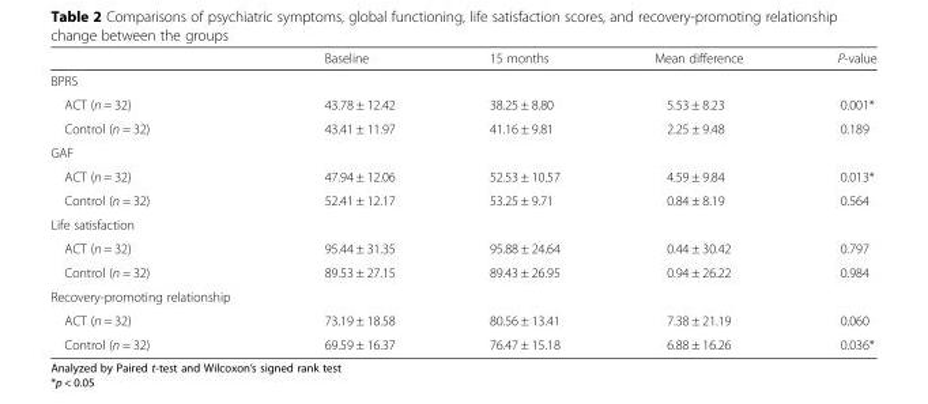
<table><thead><tr><td></td><td>Baseline</td><td>15 months</td><td>Mean difference</td><td>P-value</td></tr></thead><tbody><tr><td colspan="5">BPRS</td></tr><tr><td>ACT (n = 32)</td><td>43.78 ± 12.42</td><td>38.25 ± 8.80</td><td>5.53 ± 8.23</td><td>0.001*</td></tr><tr><td>Control (n = 32)</td><td>43.41 ± 11.97</td><td>41.16 ± 9.81</td><td>2.25 ± 9.48</td><td>0.189</td></tr><tr><td colspan="5">GAF</td></tr><tr><td>ACT (n = 32)</td><td>47.94 ± 12.06</td><td>52.53 ± 10.57</td><td>4.59 ± 9.84</td><td>0.013*</td></tr><tr><td>Control (n = 32)</td><td>52.41 ± 12.17</td><td>53.25 ± 9.71</td><td>0.84 ± 8.19</td><td>0.564</td></tr><tr><td colspan="5">Life satisfaction</td></tr><tr><td>ACT (n = 32)</td><td>95.44 ± 31.35</td><td>95.88 ± 24.64</td><td>0.44 ± 30.42</td><td>0.797</td></tr><tr><td>Control (n = 32)</td><td>89.53 ± 27.15</td><td>89.43 ± 26.95</td><td>0.94 ± 26.22</td><td>0.984</td></tr><tr><td colspan="5">Recovery-promoting relationship</td></tr><tr><td>ACT (n = 32)</td><td>73.19 ± 18.58</td><td>80.56 ± 13.41</td><td>7.38 ± 21.19</td><td>0.060</td></tr><tr><td>Control (n = 32)</td><td>69.59 ± 16.37</td><td>76.47 ± 15.18</td><td>6.88 ± 16.26</td><td>0.036*</td></tr></tbody></table>